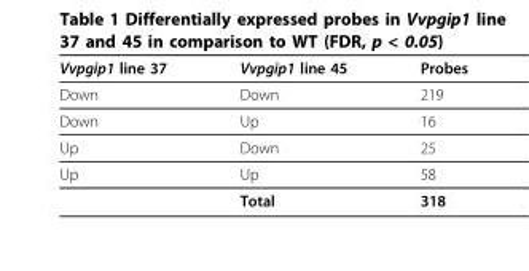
<table><thead><tr><td>Vvpgip1 line 37</td><td>Vvpgip1 line 45</td><td>Probes</td></tr></thead><tbody><tr><td>Down</td><td>Down</td><td>219</td></tr><tr><td>Down</td><td>Up</td><td>16</td></tr><tr><td>Up</td><td>Down</td><td>25</td></tr><tr><td rowspan="2">Up</td><td>Up</td><td>58</td></tr><tr><td>Total</td><td>318</td></tr></tbody></table>